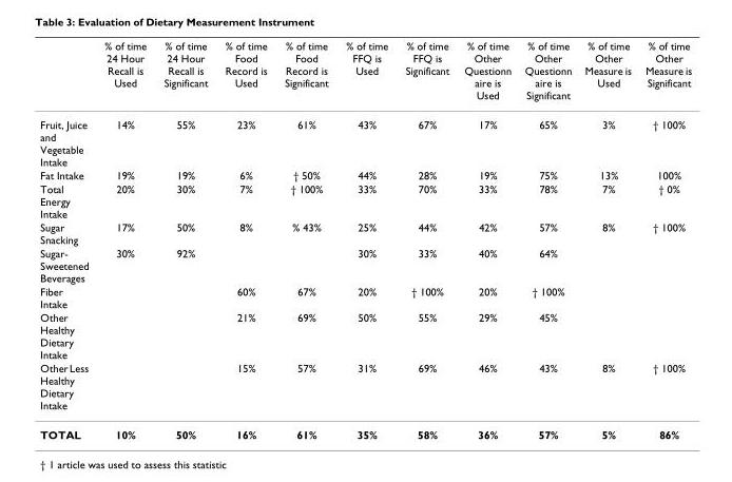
<table><thead><tr><td></td><td>% of time 24 Hour Recall is Used</td><td>% of time 24 Hour Recall is Significant</td><td>% of time Food Record is Used</td><td>% of time Food Record is Significant</td><td>% of time FFQ is Used</td><td>% of time FFQ is Significant</td><td>% of time Other Questionn aire is Used</td><td>% of time Other Questionn aire is Significant</td><td>% of time Other Measure is Used</td><td>% of time Other Measure is Significant</td></tr></thead><tbody><tr><td>Fruit, Juice and Vegetable Intake</td><td>14%</td><td>55%</td><td>23%</td><td>61%</td><td>43%</td><td>67%</td><td>17%</td><td>65%</td><td>3%</td><td>† 100%</td></tr><tr><td>Fat Intake</td><td>19%</td><td>19%</td><td>6%</td><td>† 50%</td><td>44%</td><td>28%</td><td>19%</td><td>75%</td><td>13%</td><td>100%</td></tr><tr><td>Total Energy Intake</td><td>20%</td><td>30%</td><td>7%</td><td>† 100%</td><td>33%</td><td>70%</td><td>33%</td><td>78%</td><td>7%</td><td>† 0%</td></tr><tr><td>Sugar Snacking</td><td>17%</td><td>50%</td><td>8%</td><td>% 43%</td><td>25%</td><td>44%</td><td>42%</td><td>57%</td><td>8%</td><td>† 100%</td></tr><tr><td>Sugar- Sweetened Beverages</td><td>30%</td><td>92%</td><td></td><td></td><td>30%</td><td>33%</td><td>40%</td><td>64%</td><td></td><td></td></tr><tr><td>Fiber Intake</td><td></td><td></td><td>60%</td><td>67%</td><td>20%</td><td>† 100%</td><td>20%</td><td>† 100%</td><td></td><td></td></tr><tr><td>Other Healthy Dietary Intake</td><td></td><td></td><td>21%</td><td>69%</td><td>50%</td><td>55%</td><td>29%</td><td>45%</td><td></td><td></td></tr><tr><td>Other Less Healthy Dietary Intake</td><td></td><td></td><td>15%</td><td>57%</td><td>31%</td><td>69%</td><td>46%</td><td>43%</td><td>8%</td><td>† 100%</td></tr><tr><td>TOTAL</td><td>10%</td><td>50%</td><td>16%</td><td>61%</td><td>35%</td><td>58%</td><td>36%</td><td>57%</td><td>5%</td><td>86%</td></tr></tbody></table>